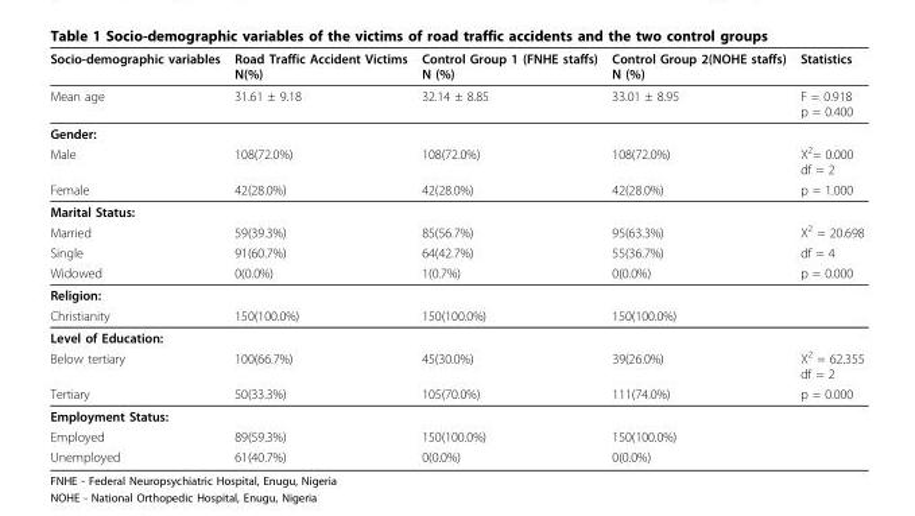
<table><thead><tr><td>Socio-demographic variables</td><td>Road Traffic Accident Victims N(%)</td><td>Control Group 1 (FNHE staffs) N (%)</td><td>Control Group 2(NOHE staffs) N (%)</td><td>Statistics</td></tr></thead><tbody><tr><td>Mean age</td><td>31.61 ± 9.18</td><td>32.14 ± 8.85</td><td>33.01 ± 8.95</td><td>F = 0.918 p = 0.400</td></tr><tr><td colspan="5">Gender:</td></tr><tr><td>Male</td><td>108(72.0%)</td><td>108(72.0%)</td><td>108(72.0%)</td><td>X<sup>2</sup>= 0.000 df = 2</td></tr><tr><td>Female</td><td>42(28.0%)</td><td>42(28.0%)</td><td>42(28.0%)</td><td>p = 1.000</td></tr><tr><td colspan="5">Marital Status:</td></tr><tr><td>Married</td><td>59(39.3%)</td><td>85(56.7%)</td><td>95(63.3%)</td><td>X<sup>2</sup> = 20.698</td></tr><tr><td>Single</td><td>91(60.7%)</td><td>64(42.7%)</td><td>55(36.7%)</td><td>df = 4</td></tr><tr><td>Widowed</td><td>0(0.0%)</td><td>1(0.7%)</td><td>0(0.0%)</td><td>p = 0.000</td></tr><tr><td colspan="5">Religion:</td></tr><tr><td>Christianity</td><td>150(100.0%)</td><td>150(100.0%)</td><td>150(100.0%)</td><td></td></tr><tr><td colspan="5">Level of Education:</td></tr><tr><td>Below tertiary</td><td>100(66.7%)</td><td>45(30.0%)</td><td>39(26.0%)</td><td>X<sup>2</sup> = 62.355 df = 2</td></tr><tr><td>Tertiary</td><td>50(33.3%)</td><td>105(70.0%)</td><td>111(74.0%)</td><td>p = 0.000</td></tr><tr><td colspan="5">Employment Status:</td></tr><tr><td>Employed</td><td>89(59.3%)</td><td>150(100.0%)</td><td>150(100.0%)</td><td></td></tr><tr><td>Unemployed</td><td>61(40.7%)</td><td>0(0.0%)</td><td>0(0.0%)</td><td></td></tr></tbody></table>